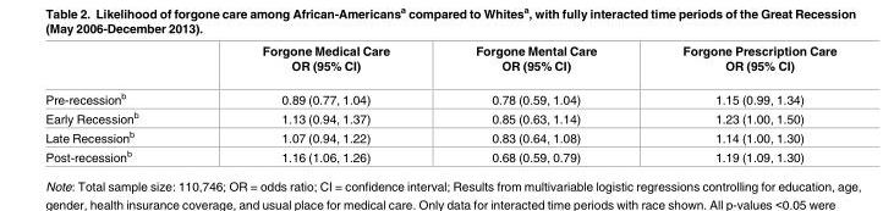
<table><thead><tr><td></td><td>Forgone Medical Care OR (95% CI)</td><td>Forgone Mental Care OR (95% CI)</td><td>Forgone Prescription Care OR (95% CI)</td></tr></thead><tbody><tr><td>Pre-recession<sup>b</sup></td><td>0.89 (0.77, 1.04)</td><td>0.78 (0.59, 1.04)</td><td>1.15 (0.99, 1.34)</td></tr><tr><td>Early Recession<sup>b</sup></td><td>1.13 (0.94, 1.37)</td><td>0.85 (0.63, 1.14)</td><td>1.23 (1.00, 1.50)</td></tr><tr><td>Late Recession<sup>b</sup></td><td>1.07 (0.94, 1.22)</td><td>0.83 (0.64, 1.08)</td><td>1.14 (1.00, 1.30)</td></tr><tr><td>Post-recession<sup>b</sup></td><td>1.16 (1.06, 1.26)</td><td>0.68 (0.59, 0.79)</td><td>1.19 (1.09, 1.30)</td></tr></tbody></table>